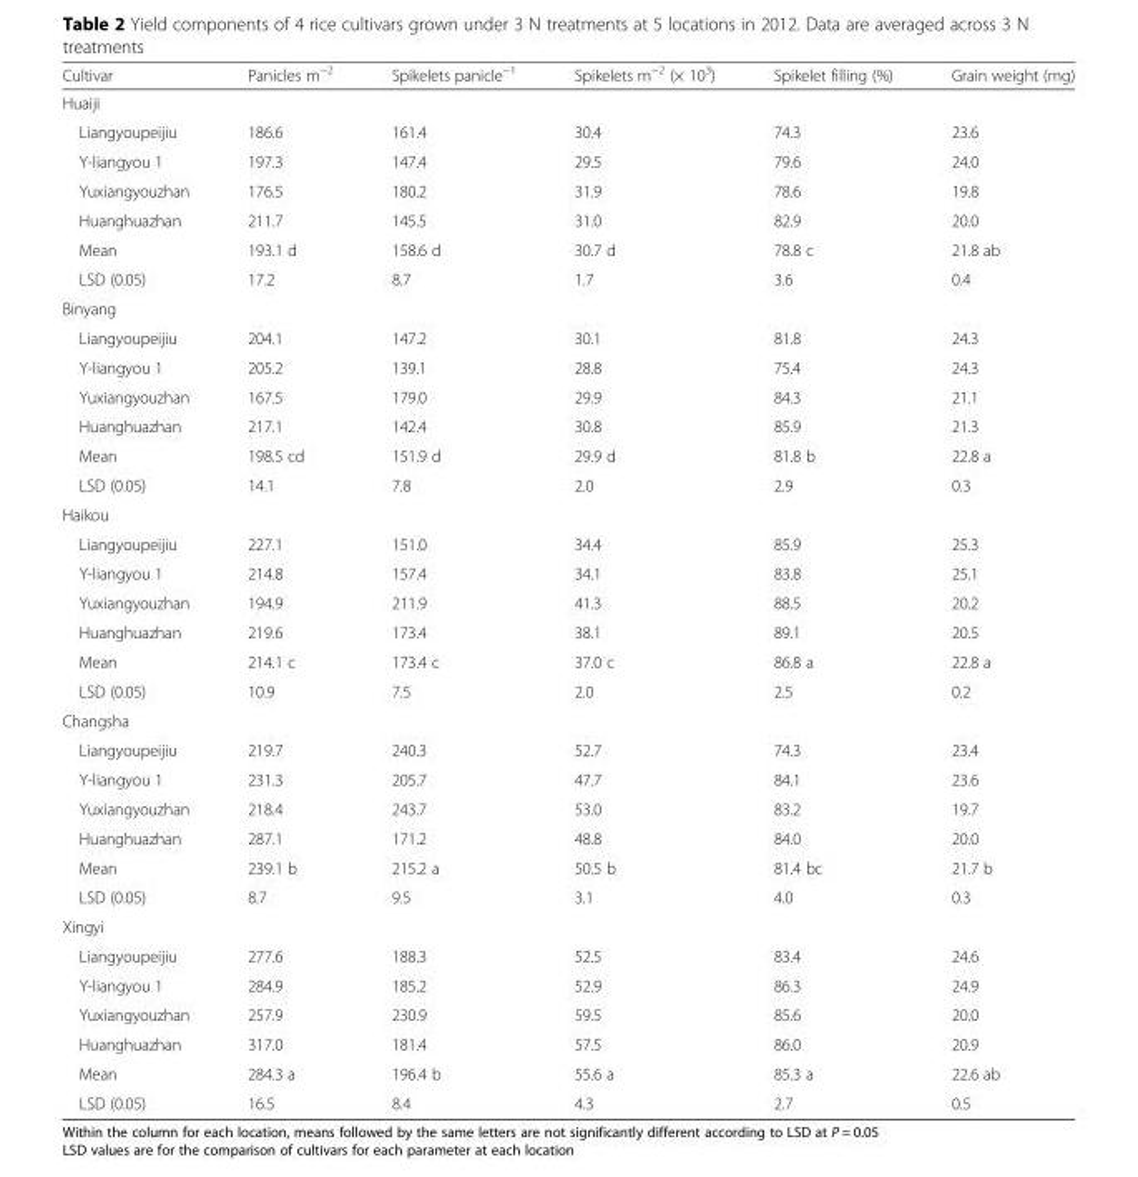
<table><thead><tr><td>Cultivar</td><td>Panicles m<sup>−2</sup></td><td>Spikelets panicle<sup>−1</sup></td><td>Spikelets m<sup>−2</sup> (× 10<sup>3</sup>)</td><td>Spikelet filling (%)</td><td>Grain weight (mg)</td></tr></thead><tbody><tr><td colspan="6">Huaiji</td></tr><tr><td>Liangyoupeijiu</td><td>186.6</td><td>161.4</td><td>30.4</td><td>74.3</td><td>23.6</td></tr><tr><td>Y-liangyou 1</td><td>197.3</td><td>147.4</td><td>29.5</td><td>79.6</td><td>24.0</td></tr><tr><td>Yuxiangyouzhan</td><td>176.5</td><td>180.2</td><td>31.9</td><td>78.6</td><td>19.8</td></tr><tr><td>Huanghuazhan</td><td>211.7</td><td>145.5</td><td>31.0</td><td>82.9</td><td>20.0</td></tr><tr><td>Mean</td><td>193.1 d</td><td>158.6 d</td><td>30.7 d</td><td>78.8 c</td><td>21.8 ab</td></tr><tr><td>LSD (0.05)</td><td>17.2</td><td>8.7</td><td>1.7</td><td>3.6</td><td>0.4</td></tr><tr><td colspan="6">Binyang</td></tr><tr><td>Liangyoupeijiu</td><td>204.1</td><td>147.2</td><td>30.1</td><td>81.8</td><td>24.3</td></tr><tr><td>Y-liangyou 1</td><td>205.2</td><td>139.1</td><td>28.8</td><td>75.4</td><td>24.3</td></tr><tr><td>Yuxiangyouzhan</td><td>167.5</td><td>179.0</td><td>29.9</td><td>84.3</td><td>21.1</td></tr><tr><td>Huanghuazhan</td><td>217.1</td><td>142.4</td><td>30.8</td><td>85.9</td><td>21.3</td></tr><tr><td>Mean</td><td>198.5 cd</td><td>151.9 d</td><td>29.9 d</td><td>81.8 b</td><td>22.8 a</td></tr><tr><td>LSD (0.05)</td><td>14.1</td><td>7.8</td><td>2.0</td><td>2.9</td><td>0.3</td></tr><tr><td colspan="6">Haikou</td></tr><tr><td>Liangyoupeijiu</td><td>227.1</td><td>151.0</td><td>34.4</td><td>85.9</td><td>25.3</td></tr><tr><td>Y-liangyou 1</td><td>214.8</td><td>157.4</td><td>34.1</td><td>83.8</td><td>25.1</td></tr><tr><td>Yuxiangyouzhan</td><td>194.9</td><td>211.9</td><td>41.3</td><td>88.5</td><td>20.2</td></tr><tr><td>Huanghuazhan</td><td>219.6</td><td>173.4</td><td>38.1</td><td>89.1</td><td>20.5</td></tr><tr><td>Mean</td><td>214.1 c</td><td>173.4 c</td><td>37.0 c</td><td>86.8 a</td><td>22.8 a</td></tr><tr><td>LSD (0.05)</td><td>10.9</td><td>7.5</td><td>2.0</td><td>2.5</td><td>0.2</td></tr><tr><td colspan="6">Changsha</td></tr><tr><td>Liangyoupeijiu</td><td>219.7</td><td>240.3</td><td>52.7</td><td>74.3</td><td>23.4</td></tr><tr><td>Y-liangyou 1</td><td>231.3</td><td>205.7</td><td>47.7</td><td>84.1</td><td>23.6</td></tr><tr><td>Yuxiangyouzhan</td><td>218.4</td><td>243.7</td><td>53.0</td><td>83.2</td><td>19.7</td></tr><tr><td>Huanghuazhan</td><td>287.1</td><td>171.2</td><td>48.8</td><td>84.0</td><td>20.0</td></tr><tr><td>Mean</td><td>239.1 b</td><td>215.2 a</td><td>50.5 b</td><td>81.4 bc</td><td>21.7 b</td></tr><tr><td>LSD (0.05)</td><td>8.7</td><td>9.5</td><td>3.1</td><td>4.0</td><td>0.3</td></tr><tr><td colspan="6">Xingyi</td></tr><tr><td>Liangyoupeijiu</td><td>277.6</td><td>188.3</td><td>52.5</td><td>83.4</td><td>24.6</td></tr><tr><td>Y-liangyou 1</td><td>284.9</td><td>185.2</td><td>52.9</td><td>86.3</td><td>24.9</td></tr><tr><td>Yuxiangyouzhan</td><td>257.9</td><td>230.9</td><td>59.5</td><td>85.6</td><td>20.0</td></tr><tr><td>Huanghuazhan</td><td>317.0</td><td>181.4</td><td>57.5</td><td>86.0</td><td>20.9</td></tr><tr><td>Mean</td><td>284.3 a</td><td>196.4 b</td><td>55.6 a</td><td>85.3 a</td><td>22.6 ab</td></tr><tr><td>LSD (0.05)</td><td>16.5</td><td>8.4</td><td>4.3</td><td>2.7</td><td>0.5</td></tr></tbody></table>